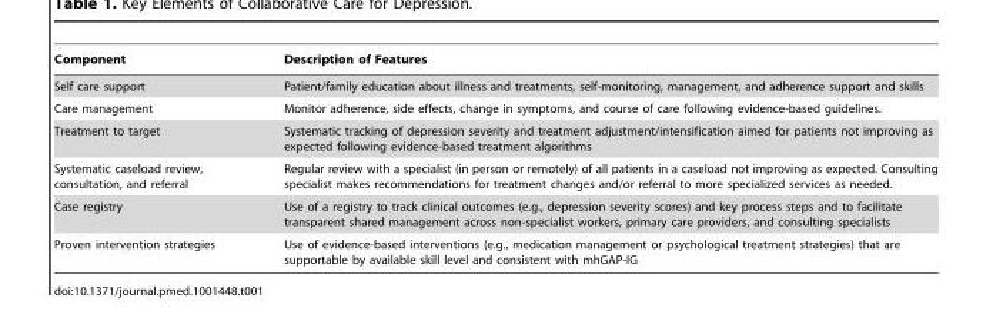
<table><thead><tr><td>Component</td><td>Description of Features</td></tr></thead><tbody><tr><td>Self care support</td><td>Patient/family education about illness and treatments, self-monitoring, management, and adherence support and skills</td></tr><tr><td>Care management</td><td>Monitor adherence, side effects, change in symptoms, and course of care following evidence-based guidelines.</td></tr><tr><td>Treatment to target</td><td>Systematic tracking of depression severity and treatment adjustment/intensification aimed for patients not improving as expected following evidence-based treatment algorithms</td></tr><tr><td>Systematic caseload review, consultation, and referral</td><td>Regular review with a specialist (in person or remotely) of all patients in a caseload not improving as expected. Consulting specialist makes recommendations for treatment changes and/or referral to more specialized services as needed.</td></tr><tr><td>Case registry</td><td>Use of a registry to track clinical outcomes (e.g., depression severity scores) and key process steps and to facilitate transparent shared management across non-specialist workers, primary care providers, and consulting specialists</td></tr><tr><td>Proven intervention strategies</td><td>Use of evidence-based interventions (e.g., medication management or psychological treatment strategies) that are supportable by available skill level and consistent with mhGAP-IG</td></tr></tbody></table>